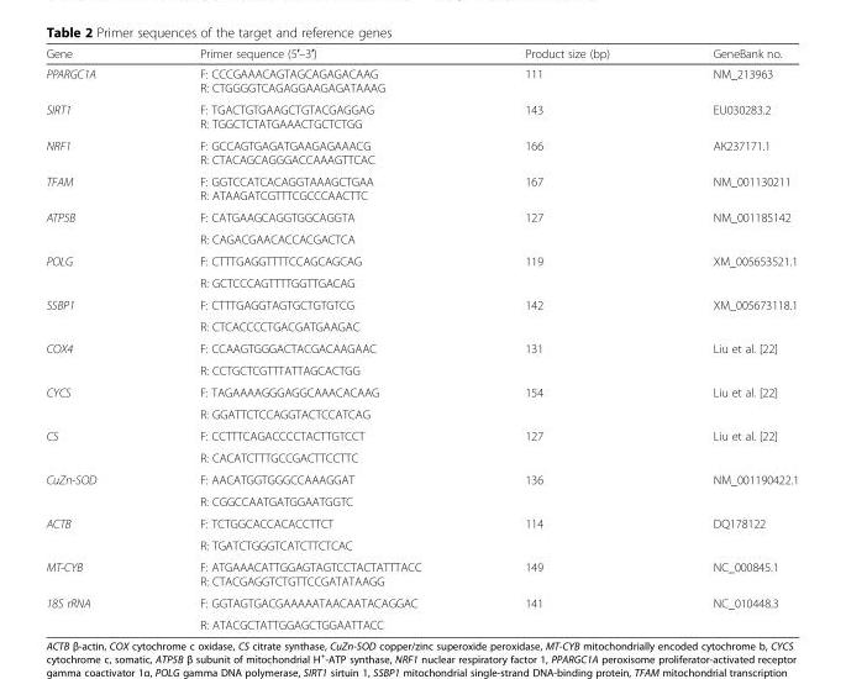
<table><thead><tr><td>Gene</td><td>Primer sequence (5′–3′)</td><td>Product size (bp)</td><td>GeneBank no.</td></tr></thead><tbody><tr><td>PPARGC1A</td><td>F: CCCGAAACAGTAGCAGAGACAAG R: CTGGGGTCAGAGGAAGAGATAAAG</td><td>111</td><td>NM_213963</td></tr><tr><td>SIRT1</td><td>F: TGACTGTGAAGCTGTACGAGGAG R: TGGCTCTATGAAACTGCTCTGG</td><td>143</td><td>EU030283.2</td></tr><tr><td>NRF1</td><td>F: GCCAGTGAGATGAAGAGAAACG R: CTACAGCAGGGACCAAAGTTCAC</td><td>166</td><td>AK237171.1</td></tr><tr><td>TFAM</td><td>F: GGTCCATCACAGGTAAAGCTGAA R: ATAAGATCGTTTCGCCCAACTTC</td><td>167</td><td>NM_001130211</td></tr><tr><td rowspan="2">ATP5B</td><td>F: CATGAAGCAGGTGGCAGGTA</td><td>127</td><td>NM_001185142</td></tr><tr><td>R: CAGACGAACACCACGACTCA</td><td></td><td></td></tr><tr><td rowspan="2">POLG</td><td>F: CTTTGAGGTTTTCCAGCAGCAG</td><td>119</td><td>XM_005653521.1</td></tr><tr><td>R: GCTCCCAGTTTTGGTTGACAG</td><td></td><td></td></tr><tr><td rowspan="2">SSBP1</td><td>F: CTTTGAGGTAGTGCTGTGTCG</td><td>142</td><td>XM_005673118.1</td></tr><tr><td>R: CTCACCCCTGACGATGAAGAC</td><td></td><td></td></tr><tr><td rowspan="2">COX4</td><td>F: CCAAGTGGGACTACGACAAGAAC</td><td>131</td><td>Liu et al. [22]</td></tr><tr><td>R: CCTGCTCGTTTATTAGCACTGG</td><td></td><td></td></tr><tr><td rowspan="2">CYCS</td><td>F: TAGAAAAGGGAGGCAAACACAAG</td><td>154</td><td>Liu et al. [22]</td></tr><tr><td>R: GGATTCTCCAGGTACTCCATCAG</td><td></td><td></td></tr><tr><td rowspan="2">CS</td><td>F: CCTTTCAGACCCCTACTTGTCCT</td><td>127</td><td>Liu et al. [22]</td></tr><tr><td>R: CACATCTTTGCCGACTTCCTTC</td><td></td><td></td></tr><tr><td rowspan="2">CuZn-SOD</td><td>F: AACATGGTGGGCCAAAGGAT</td><td>136</td><td>NM_001190422.1</td></tr><tr><td>R: CGGCCAATGATGGAATGGTC</td><td></td><td></td></tr><tr><td rowspan="2">ACTB</td><td>F: TCTGGCACCACACCTTCT</td><td>114</td><td>DQ178122</td></tr><tr><td>R: TGATCTGGGTCATCTTCTCAC</td><td></td><td></td></tr><tr><td>MT-CYB</td><td>F: ATGAAACATTGGAGTAGTCCTACTATTTACC R: CTACGAGGTCTGTTCCGATATAAGG</td><td>149</td><td>NC_000845.1</td></tr><tr><td rowspan="2">18S rRNA</td><td>F: GGTAGTGACGAAAAATAACAATACAGGAC</td><td>141</td><td>NC_010448.3</td></tr><tr><td>R: ATACGCTATTGGAGCTGGAATTACC</td><td></td><td></td></tr></tbody></table>